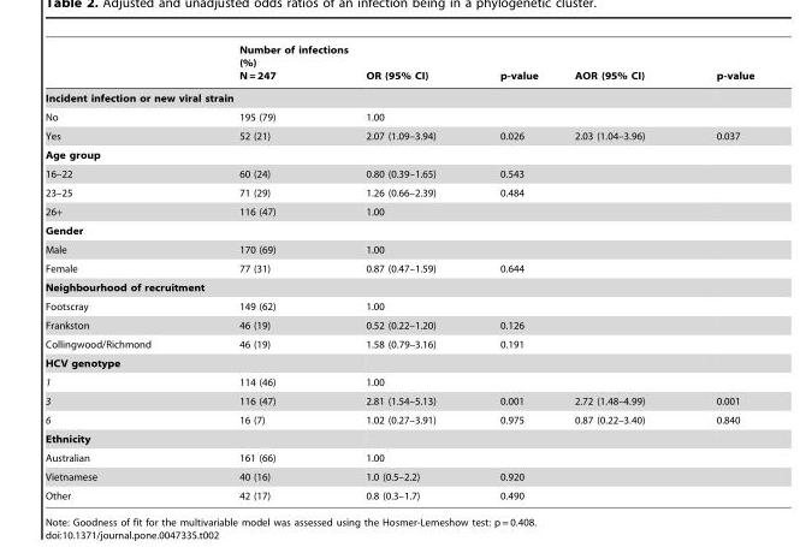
<table><thead><tr><td></td><td>Number of infections (%) N = 247</td><td>OR (95% CI)</td><td>p-value</td><td>AOR (95% CI)</td><td>p-value</td></tr></thead><tbody><tr><td colspan="6">Incident infection or new viral strain</td></tr><tr><td>No</td><td>195 (79)</td><td>1.00</td><td></td><td></td><td></td></tr><tr><td>Yes</td><td>52 (21)</td><td>2.07 (1.09–3.94)</td><td>0.026</td><td>2.03 (1.04–3.96)</td><td>0.037</td></tr><tr><td colspan="6">Age group</td></tr><tr><td>16–22</td><td>60 (24)</td><td>0.80 (0.39–1.65)</td><td>0.543</td><td></td><td></td></tr><tr><td>23–25</td><td>71 (29)</td><td>1.26 (0.66–2.39)</td><td>0.484</td><td></td><td></td></tr><tr><td>26+</td><td>116 (47)</td><td>1.00</td><td></td><td></td><td></td></tr><tr><td colspan="6">Gender</td></tr><tr><td>Male</td><td>170 (69)</td><td>1.00</td><td></td><td></td><td></td></tr><tr><td>Female</td><td>77 (31)</td><td>0.87 (0.47–1.59)</td><td>0.644</td><td></td><td></td></tr><tr><td colspan="6">Neighbourhood of recruitment</td></tr><tr><td>Footscray</td><td>149 (62)</td><td>1.00</td><td></td><td></td><td></td></tr><tr><td>Frankston</td><td>46 (19)</td><td>0.52 (0.22–1.20)</td><td>0.126</td><td></td><td></td></tr><tr><td>Collingwood/Richmond</td><td>46 (19)</td><td>1.58 (0.79–3.16)</td><td>0.191</td><td></td><td></td></tr><tr><td colspan="6">HCV genotype</td></tr><tr><td>1</td><td>114 (46)</td><td>1.00</td><td></td><td></td><td></td></tr><tr><td>3</td><td>116 (47)</td><td>2.81 (1.54–5.13)</td><td>0.001</td><td>2.72 (1.48–4.99)</td><td>0.001</td></tr><tr><td>6</td><td>16 (7)</td><td>1.02 (0.27–3.91)</td><td>0.975</td><td>0.87 (0.22–3.40)</td><td>0.840</td></tr><tr><td colspan="6">Ethnicity</td></tr><tr><td>Australian</td><td>161 (66)</td><td>1.00</td><td></td><td></td><td></td></tr><tr><td>Vietnamese</td><td>40 (16)</td><td>1.0 (0.5–2.2)</td><td>0.920</td><td></td><td></td></tr><tr><td>Other</td><td>42 (17)</td><td>0.8 (0.3–1.7)</td><td>0.490</td><td></td><td></td></tr></tbody></table>